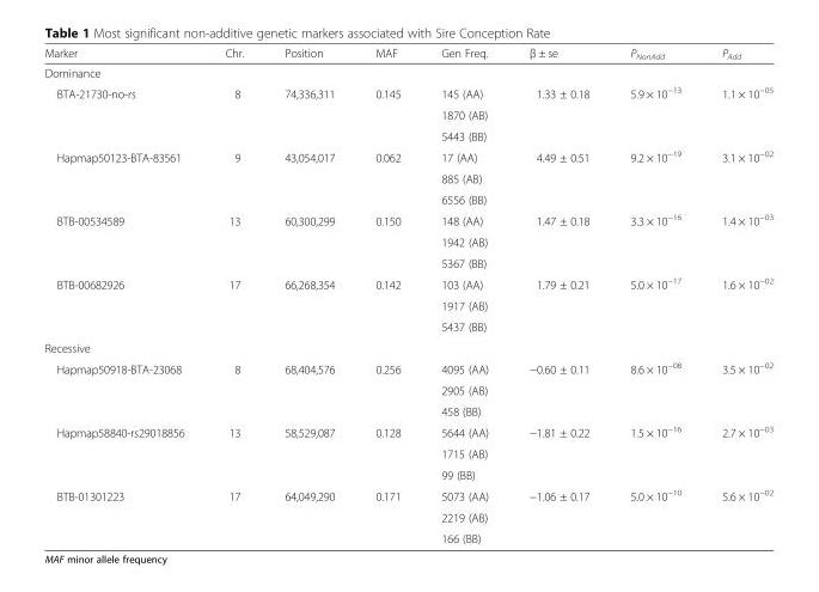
<table><thead><tr><td>Marker</td><td>Chr.</td><td>Position</td><td>MAF</td><td>Gen Freq.</td><td>β ± se</td><td>P<sub>NonAdd</sub></td><td>P<sub>Add</sub></td></tr></thead><tbody><tr><td colspan="8">Dominance</td></tr><tr><td rowspan="3">BTA-21730-no-rs</td><td rowspan="3">8</td><td rowspan="3">74,336,311</td><td rowspan="3">0.145</td><td>145 (AA)</td><td rowspan="3">1.33 ± 0.18</td><td rowspan="3">5.9 × 10<sup>−13</sup></td><td rowspan="3">1.1 × 10<sup>−05</sup></td></tr><tr><td>1870 (AB)</td></tr><tr><td>5443 (BB)</td></tr><tr><td rowspan="3">Hapmap50123-BTA-83561</td><td rowspan="3">9</td><td rowspan="3">43,054,017</td><td rowspan="3">0.062</td><td>17 (AA)</td><td rowspan="3">4.49 ± 0.51</td><td rowspan="3">9.2 × 10<sup>−19</sup></td><td rowspan="3">3.1 × 10<sup>−02</sup></td></tr><tr><td>885 (AB)</td></tr><tr><td>6556 (BB)</td></tr><tr><td rowspan="3">BTB-00534589</td><td rowspan="3">13</td><td rowspan="3">60,300,299</td><td rowspan="3">0.150</td><td>148 (AA)</td><td rowspan="3">1.47 ± 0.18</td><td rowspan="3">3.3 × 10<sup>−16</sup></td><td rowspan="3">1.4 × 10<sup>−03</sup></td></tr><tr><td>1942 (AB)</td></tr><tr><td>5367 (BB)</td></tr><tr><td rowspan="3">BTB-00682926</td><td rowspan="3">17</td><td rowspan="3">66,268,354</td><td rowspan="3">0.142</td><td>103 (AA)</td><td rowspan="3">1.79 ± 0.21</td><td rowspan="3">5.0 × 10<sup>−17</sup></td><td rowspan="3">1.6 × 10<sup>−02</sup></td></tr><tr><td>1917 (AB)</td></tr><tr><td>5437 (BB)</td></tr><tr><td colspan="8">Recessive</td></tr><tr><td rowspan="3">Hapmap50918-BTA-23068</td><td rowspan="3">8</td><td rowspan="3">68,404,576</td><td rowspan="3">0.256</td><td>4095 (AA)</td><td rowspan="3">−0.60 ± 0.11</td><td rowspan="3">8.6 × 10<sup>−08</sup></td><td rowspan="3">3.5 × 10<sup>−02</sup></td></tr><tr><td>2905 (AB)</td></tr><tr><td>458 (BB)</td></tr><tr><td rowspan="3">Hapmap58840-rs29018856</td><td rowspan="3">13</td><td rowspan="3">58,529,087</td><td rowspan="3">0.128</td><td>5644 (AA)</td><td rowspan="3">−1.81 ± 0.22</td><td rowspan="3">1.5 × 10<sup>−16</sup></td><td rowspan="3">2.7 × 10<sup>−03</sup></td></tr><tr><td>1715 (AB)</td></tr><tr><td>99 (BB)</td></tr><tr><td rowspan="3">BTB-01301223</td><td rowspan="3">17</td><td rowspan="3">64,049,290</td><td rowspan="3">0.171</td><td>5073 (AA)</td><td rowspan="3">−1.06 ± 0.17</td><td rowspan="3">5.0 × 10<sup>−10</sup></td><td rowspan="3">5.6 × 10<sup>−02</sup></td></tr><tr><td>2219 (AB)</td></tr><tr><td>166 (BB)</td></tr></tbody></table>